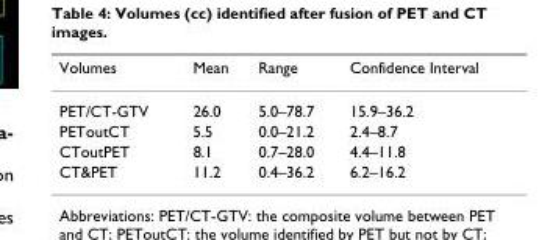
<table><thead><tr><td>Volumes</td><td>Mean</td><td>Range</td><td>Confidence Interval</td></tr></thead><tbody><tr><td>PET/CT-GTV</td><td>26.0</td><td>5.0–78.7</td><td>15.9–36.2</td></tr><tr><td>PEToutCT</td><td>5.5</td><td>0.0–21.2</td><td>2.4–8.7</td></tr><tr><td>CToutPET</td><td>8.1</td><td>0.7–28.0</td><td>4.4–11.8</td></tr><tr><td>CT&amp;PET</td><td>11.2</td><td>0.4–36.2</td><td>6.2–16.2</td></tr></tbody></table>